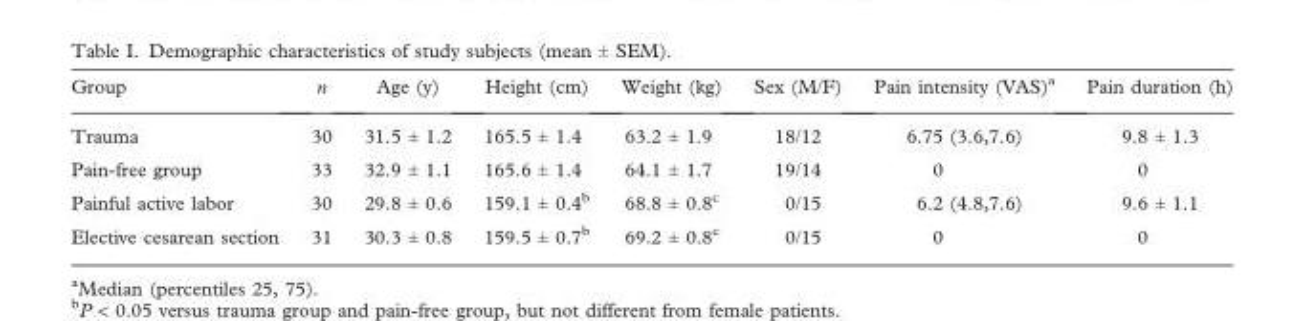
<table><thead><tr><td>Group</td><td>n</td><td>Age (y)</td><td>Height (cm)</td><td>Weight (kg)</td><td>Sex (M/F)</td><td>Pain intensity (VAS)<sup>a</sup></td><td>Pain duration (h)</td></tr></thead><tbody><tr><td>Trauma</td><td>30</td><td>31.5 ± 1.2</td><td>165.5 ± 1.4</td><td>63.2 ± 1.9</td><td>18/12</td><td>6.75 (3.6,7.6)</td><td>9.8 ± 1.3</td></tr><tr><td>Pain-free group</td><td>33</td><td>32.9 ± 1.1</td><td>165.6 ± 1.4</td><td>64.1 ± 1.7</td><td>19/14</td><td>0</td><td>0</td></tr><tr><td>Painful active labor</td><td>30</td><td>29.8 ± 0.6</td><td>159.1 ± 0.4<sup>b</sup></td><td>68.8 ± 0.8<sup>c</sup></td><td>0/15</td><td>6.2 (4.8,7.6)</td><td>9.6 ± 1.1</td></tr><tr><td>Elective cesarean section</td><td>31</td><td>30.3 ± 0.8</td><td>159.5 ± 0.7<sup>b</sup></td><td>69.2 ± 0.8<sup>c</sup></td><td>0/15</td><td>0</td><td>0</td></tr></tbody></table>